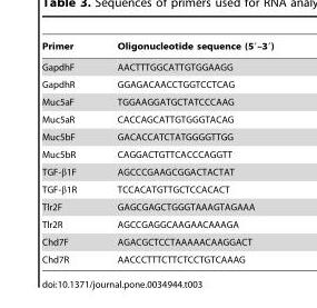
<table><thead><tr><td>Primer</td><td>Oligonucleotide sequence (5′–3′)</td></tr></thead><tbody><tr><td>GapdhF</td><td>AACTTTGGCATTGTGGAAGG</td></tr><tr><td>GapdhR</td><td>GGAGACAACCTGGTCCTCAG</td></tr><tr><td>Muc5aF</td><td>TGGAAGGATGCTATCCCAAG</td></tr><tr><td>Muc5aR</td><td>CACCAGCATTGTGGGTACAG</td></tr><tr><td>Muc5bF</td><td>GACACCATCTATGGGGTTGG</td></tr><tr><td>Muc5bR</td><td>CAGGACTGTTCACCCAGGTT</td></tr><tr><td>TGF-β1F</td><td>AGCCCGAAGCGGACTACTAT</td></tr><tr><td>TGF-β1R</td><td>TCCACATGTTGCTCCACACT</td></tr><tr><td>Tlr2F</td><td>GAGCGAGCTGGGTAAAGTAGAAA</td></tr><tr><td>Tlr2R</td><td>AGCCGAGGCAAGAACAAAGA</td></tr><tr><td>Chd7F</td><td>AGACGCTCCTAAAAACAAGGACT</td></tr><tr><td>Chd7R</td><td>AACCCTTTCTTCTCCTGTCAAAG</td></tr></tbody></table>